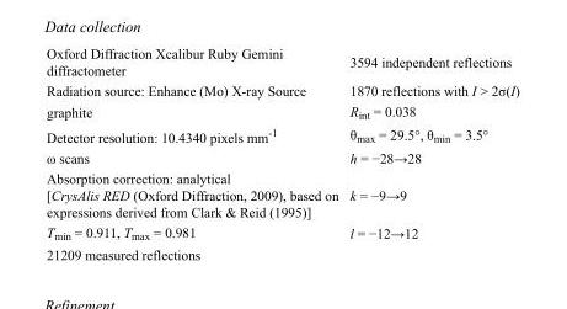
<table><tbody><tr><td>Oxford Diffraction Xcalibur Ruby Gemini diffractometer</td><td>3594 independent reflections</td></tr><tr><td>Radiation source: Enhance (Mo) X-ray Source</td><td>1870 reflections with I &gt; 2σ(I)</td></tr><tr><td>graphite</td><td>R<sub>int</sub> = 0.038</td></tr><tr><td>Detector resolution: 10.4340 pixels mm<sup>-1</sup></td><td>θ<sub>max</sub> = 29.5°, θ<sub>min</sub> = 3.5°</td></tr><tr><td>ω scans</td><td>h = −28→28</td></tr><tr><td>Absorption correction: analytical [CrysAlis RED (Oxford Diffraction, 2009), based on expressions derived from Clark &amp; Reid (1995)]</td><td>k = −9→9</td></tr><tr><td>T<sub>min</sub> = 0.911, T<sub>max</sub> = 0.981</td><td>l = −12→12</td></tr><tr><td>21209 measured reflections</td><td></td></tr></tbody></table>